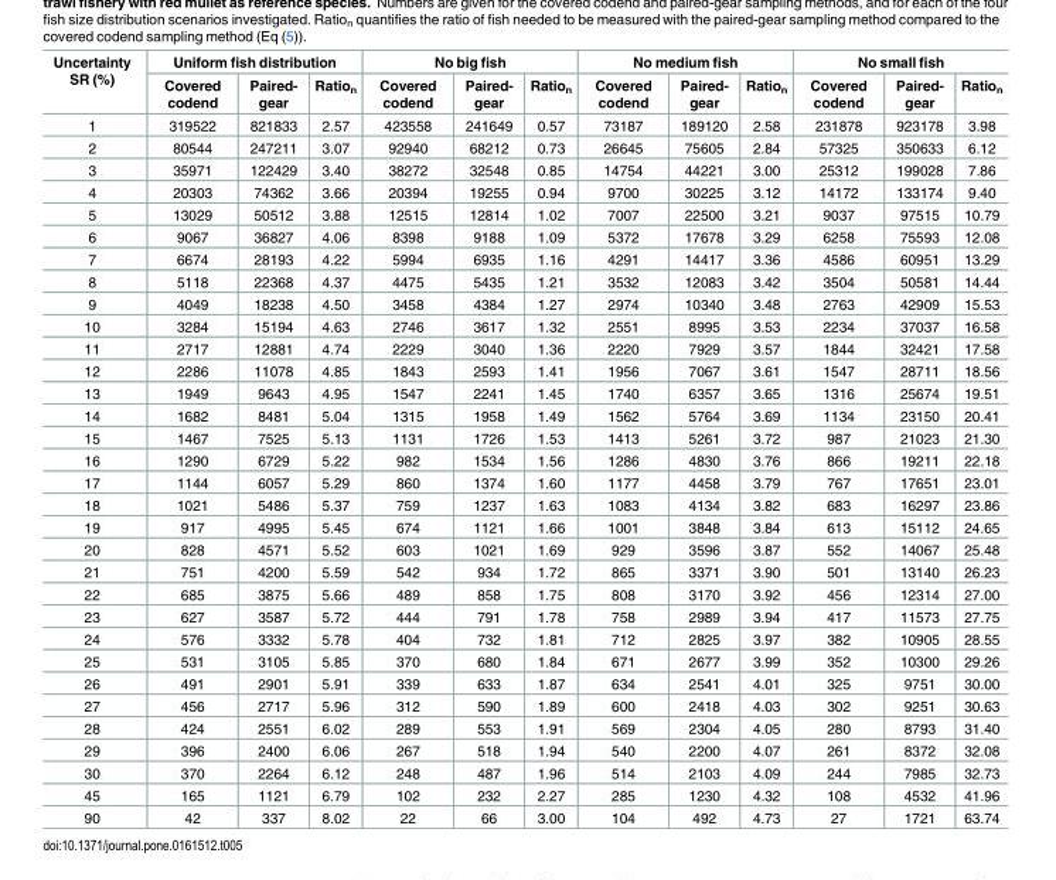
<table><thead><tr><td rowspan="2">Uncertainty SR (%)</td><td colspan="3">Uniform fish distribution</td><td colspan="3">No big fish</td><td colspan="3">No medium fish</td><td colspan="3">No small fish</td></tr><tr><td>Covered codend</td><td>Paired- gear</td><td>Ratio<sub>n</sub></td><td>Covered codend</td><td>Paired- gear</td><td>Ratio<sub>n</sub></td><td>Covered codend</td><td>Paired- gear</td><td>Ratio<sub>n</sub></td><td>Covered codend</td><td>Paired- gear</td><td>Ratio<sub>n</sub></td></tr></thead><tbody><tr><td>1</td><td>319522</td><td>821833</td><td>2.57</td><td>423558</td><td>241649</td><td>0.57</td><td>73187</td><td>189120</td><td>2.58</td><td>231878</td><td>923178</td><td>3.98</td></tr><tr><td>2</td><td>80544</td><td>247211</td><td>3.07</td><td>92940</td><td>68212</td><td>0.73</td><td>26645</td><td>75605</td><td>2.84</td><td>57325</td><td>350633</td><td>6.12</td></tr><tr><td>3</td><td>35971</td><td>122429</td><td>3.40</td><td>38272</td><td>32548</td><td>0.85</td><td>14754</td><td>44221</td><td>3.00</td><td>25312</td><td>199028</td><td>7.86</td></tr><tr><td>4</td><td>20303</td><td>74362</td><td>3.66</td><td>20394</td><td>19255</td><td>0.94</td><td>9700</td><td>30225</td><td>3.12</td><td>14172</td><td>133174</td><td>9.40</td></tr><tr><td>5</td><td>13029</td><td>50512</td><td>3.88</td><td>12515</td><td>12814</td><td>1.02</td><td>7007</td><td>22500</td><td>3.21</td><td>9037</td><td>97515</td><td>10.79</td></tr><tr><td>6</td><td>9067</td><td>36827</td><td>4.06</td><td>8398</td><td>9188</td><td>1.09</td><td>5372</td><td>17678</td><td>3.29</td><td>6258</td><td>75593</td><td>12.08</td></tr><tr><td>7</td><td>6674</td><td>28193</td><td>4.22</td><td>5994</td><td>6935</td><td>1.16</td><td>4291</td><td>14417</td><td>3.36</td><td>4586</td><td>60951</td><td>13.29</td></tr><tr><td>8</td><td>5118</td><td>22368</td><td>4.37</td><td>4475</td><td>5435</td><td>1.21</td><td>3532</td><td>12083</td><td>3.42</td><td>3504</td><td>50581</td><td>14.44</td></tr><tr><td>9</td><td>4049</td><td>18238</td><td>4.50</td><td>3458</td><td>4384</td><td>1.27</td><td>2974</td><td>10340</td><td>3.48</td><td>2763</td><td>42909</td><td>15.53</td></tr><tr><td>10</td><td>3284</td><td>15194</td><td>4.63</td><td>2746</td><td>3617</td><td>1.32</td><td>2551</td><td>8995</td><td>3.53</td><td>2234</td><td>37037</td><td>16.58</td></tr><tr><td>11</td><td>2717</td><td>12881</td><td>4.74</td><td>2229</td><td>3040</td><td>1.36</td><td>2220</td><td>7929</td><td>3.57</td><td>1844</td><td>32421</td><td>17.58</td></tr><tr><td>12</td><td>2286</td><td>11078</td><td>4.85</td><td>1843</td><td>2593</td><td>1.41</td><td>1956</td><td>7067</td><td>3.61</td><td>1547</td><td>28711</td><td>18.56</td></tr><tr><td>13</td><td>1949</td><td>9643</td><td>4.95</td><td>1547</td><td>2241</td><td>1.45</td><td>1740</td><td>6357</td><td>3.65</td><td>1316</td><td>25674</td><td>19.51</td></tr><tr><td>14</td><td>1682</td><td>8481</td><td>5.04</td><td>1315</td><td>1958</td><td>1.49</td><td>1562</td><td>5764</td><td>3.69</td><td>1134</td><td>23150</td><td>20.41</td></tr><tr><td>15</td><td>1467</td><td>7525</td><td>5.13</td><td>1131</td><td>1726</td><td>1.53</td><td>1413</td><td>5261</td><td>3.72</td><td>987</td><td>21023</td><td>21.30</td></tr><tr><td>16</td><td>1290</td><td>6729</td><td>5.22</td><td>982</td><td>1534</td><td>1.56</td><td>1286</td><td>4830</td><td>3.76</td><td>866</td><td>19211</td><td>22.18</td></tr><tr><td>17</td><td>1144</td><td>6057</td><td>5.29</td><td>860</td><td>1374</td><td>1.60</td><td>1177</td><td>4458</td><td>3.79</td><td>767</td><td>17651</td><td>23.01</td></tr><tr><td>18</td><td>1021</td><td>5486</td><td>5.37</td><td>759</td><td>1237</td><td>1.63</td><td>1083</td><td>4134</td><td>3.82</td><td>683</td><td>16297</td><td>23.86</td></tr><tr><td>19</td><td>917</td><td>4995</td><td>5.45</td><td>674</td><td>1121</td><td>1.66</td><td>1001</td><td>3848</td><td>3.84</td><td>613</td><td>15112</td><td>24.65</td></tr><tr><td>20</td><td>828</td><td>4571</td><td>5.52</td><td>603</td><td>1021</td><td>1.69</td><td>929</td><td>3596</td><td>3.87</td><td>552</td><td>14067</td><td>25.48</td></tr><tr><td>21</td><td>751</td><td>4200</td><td>5.59</td><td>542</td><td>934</td><td>1.72</td><td>865</td><td>3371</td><td>3.90</td><td>501</td><td>13140</td><td>26.23</td></tr><tr><td>22</td><td>685</td><td>3875</td><td>5.66</td><td>489</td><td>858</td><td>1.75</td><td>808</td><td>3170</td><td>3.92</td><td>456</td><td>12314</td><td>27.00</td></tr><tr><td>23</td><td>627</td><td>3587</td><td>5.72</td><td>444</td><td>791</td><td>1.78</td><td>758</td><td>2989</td><td>3.94</td><td>417</td><td>11573</td><td>27.75</td></tr><tr><td>24</td><td>576</td><td>3332</td><td>5.78</td><td>404</td><td>732</td><td>1.81</td><td>712</td><td>2825</td><td>3.97</td><td>382</td><td>10905</td><td>28.55</td></tr><tr><td>25</td><td>531</td><td>3105</td><td>5.85</td><td>370</td><td>680</td><td>1.84</td><td>671</td><td>2677</td><td>3.99</td><td>352</td><td>10300</td><td>29.26</td></tr><tr><td>26</td><td>491</td><td>2901</td><td>5.91</td><td>339</td><td>633</td><td>1.87</td><td>634</td><td>2541</td><td>4.01</td><td>325</td><td>9751</td><td>30.00</td></tr><tr><td>27</td><td>456</td><td>2717</td><td>5.96</td><td>312</td><td>590</td><td>1.89</td><td>600</td><td>2418</td><td>4.03</td><td>302</td><td>9251</td><td>30.63</td></tr><tr><td>28</td><td>424</td><td>2551</td><td>6.02</td><td>289</td><td>553</td><td>1.91</td><td>569</td><td>2304</td><td>4.05</td><td>280</td><td>8793</td><td>31.40</td></tr><tr><td>29</td><td>396</td><td>2400</td><td>6.06</td><td>267</td><td>518</td><td>1.94</td><td>540</td><td>2200</td><td>4.07</td><td>261</td><td>8372</td><td>32.08</td></tr><tr><td>30</td><td>370</td><td>2264</td><td>6.12</td><td>248</td><td>487</td><td>1.96</td><td>514</td><td>2103</td><td>4.09</td><td>244</td><td>7985</td><td>32.73</td></tr><tr><td>45</td><td>165</td><td>1121</td><td>6.79</td><td>102</td><td>232</td><td>2.27</td><td>285</td><td>1230</td><td>4.32</td><td>108</td><td>4532</td><td>41.96</td></tr><tr><td>90</td><td>42</td><td>337</td><td>8.02</td><td>22</td><td>66</td><td>3.00</td><td>104</td><td>492</td><td>4.73</td><td>27</td><td>1721</td><td>63.74</td></tr></tbody></table>